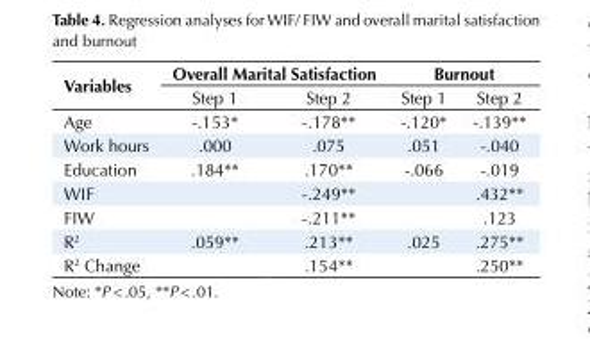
<table><tbody><tr><td rowspan="2">Variables</td><td colspan="2">Overall Marital Satisfaction</td><td colspan="2">Burnout</td></tr><tr><td>Step 1</td><td>Step 2</td><td>Step 1</td><td>Step 2</td></tr><tr><td>Age</td><td>-.153*</td><td>-.178**</td><td>-.120*</td><td>-.139**</td></tr><tr><td>Work hours</td><td>.000</td><td>.075</td><td>.051</td><td>-.040</td></tr><tr><td>Education</td><td>.184**</td><td>.170**</td><td>-.066</td><td>-.019</td></tr><tr><td>WIF</td><td></td><td>-.249**</td><td></td><td>.432**</td></tr><tr><td>FIW</td><td></td><td>-.211**</td><td></td><td>.123</td></tr><tr><td>R<sup>2</sup></td><td>.059**</td><td>.213**</td><td>.025</td><td>.275**</td></tr><tr><td>R<sup>2</sup> Change</td><td></td><td>.154**</td><td></td><td>.250**</td></tr></tbody></table>